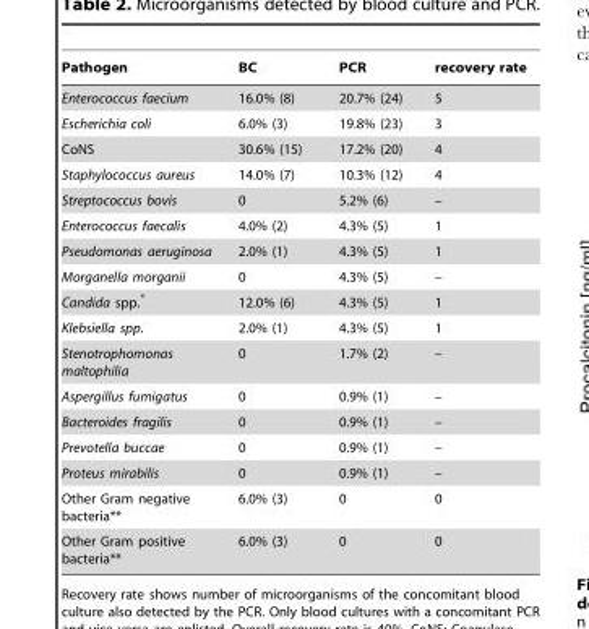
<table><thead><tr><td>Pathogen</td><td>BC</td><td>PCR</td><td>recovery rate</td></tr></thead><tbody><tr><td>Enterococcus faecium</td><td>16.0% (8)</td><td>20.7% (24)</td><td>5</td></tr><tr><td>Escherichia coli</td><td>6.0% (3)</td><td>19.8% (23)</td><td>3</td></tr><tr><td>CoNS</td><td>30.6% (15)</td><td>17.2% (20)</td><td>4</td></tr><tr><td>Staphylococcus aureus</td><td>14.0% (7)</td><td>10.3% (12)</td><td>4</td></tr><tr><td>Streptococcus bovis</td><td>0</td><td>5.2% (6)</td><td>–</td></tr><tr><td>Enterococcus faecalis</td><td>4.0% (2)</td><td>4.3% (5)</td><td>1</td></tr><tr><td>Pseudomonas aeruginosa</td><td>2.0% (1)</td><td>4.3% (5)</td><td>1</td></tr><tr><td>Morganella morganii</td><td>0</td><td>4.3% (5)</td><td>–</td></tr><tr><td>Candida spp.*</td><td>12.0% (6)</td><td>4.3% (5)</td><td>1</td></tr><tr><td>Klebsiella spp.</td><td>2.0% (1)</td><td>4.3% (5)</td><td>1</td></tr><tr><td>Stenotrophomonas maltophilia</td><td>0</td><td>1.7% (2)</td><td>–</td></tr><tr><td>Aspergillus fumigatus</td><td>0</td><td>0.9% (1)</td><td>–</td></tr><tr><td>Bacteroides fragilis</td><td>0</td><td>0.9% (1)</td><td>–</td></tr><tr><td>Prevotella buccae</td><td>0</td><td>0.9% (1)</td><td>–</td></tr><tr><td>Proteus mirabilis</td><td>0</td><td>0.9% (1)</td><td>–</td></tr><tr><td>Other Gram negative bacteria**</td><td>6.0% (3)</td><td>0</td><td>0</td></tr><tr><td>Other Gram positive bacteria**</td><td>6.0% (3)</td><td>0</td><td>0</td></tr></tbody></table>